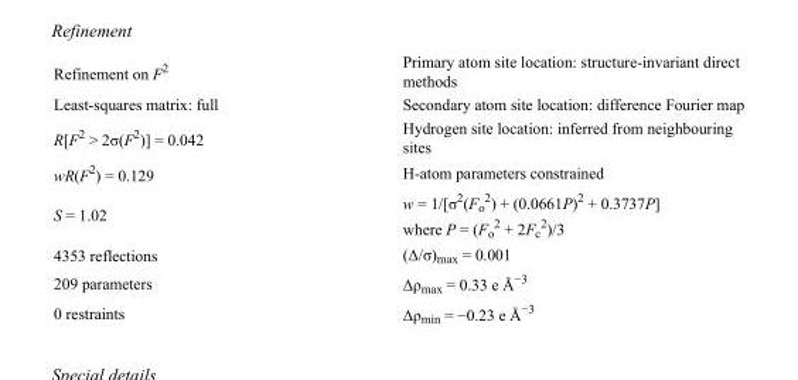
<table><tbody><tr><td>Refinement on F<sup>2</sup></td><td>Primary atom site location: structure-invariant direct methods</td></tr><tr><td>Least-squares matrix: full</td><td>Secondary atom site location: difference Fourier map</td></tr><tr><td>R[F<sup>2</sup> &gt; 2σ(F<sup>2</sup>)] = 0.042</td><td>Hydrogen site location: inferred from neighbouring sites</td></tr><tr><td>wR(F<sup>2</sup>) = 0.129</td><td>H-atom parameters constrained</td></tr><tr><td>S = 1.02</td><td>w = 1/[σ<sup>2</sup>(F<sub>o</sub> <sup>2</sup>) + (0.0661P)<sup>2</sup> + 0.3737P] where P = (F<sub>o</sub> <sup>2</sup> + 2F<sub>c</sub> <sup>2</sup>)/3</td></tr><tr><td>4353 reflections</td><td>(Δ/σ)<sub>max</sub> = 0.001</td></tr><tr><td>209 parameters</td><td>Δρ<sub>max</sub> = 0.33 e Å<sup>−3</sup></td></tr><tr><td>0 restraints</td><td>Δρ<sub>min</sub> = −0.23 e Å<sup>−3</sup></td></tr></tbody></table>